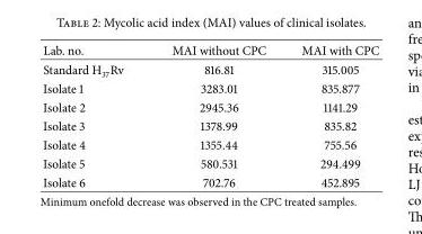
<table><thead><tr><td>Lab. no.</td><td>MAI without CPC</td><td>MAI with CPC</td></tr></thead><tbody><tr><td>Standard H<sub>37</sub>Rv</td><td>816.81</td><td>315.005</td></tr><tr><td>Isolate 1</td><td>3283.01</td><td>835.877</td></tr><tr><td>Isolate 2</td><td>2945.36</td><td>1141.29</td></tr><tr><td>Isolate 3</td><td>1378.99</td><td>835.82</td></tr><tr><td>Isolate 4</td><td>1355.44</td><td>755.56</td></tr><tr><td>Isolate 5</td><td>580.531</td><td>294.499</td></tr><tr><td>Isolate 6</td><td>702.76</td><td>452.895</td></tr></tbody></table>